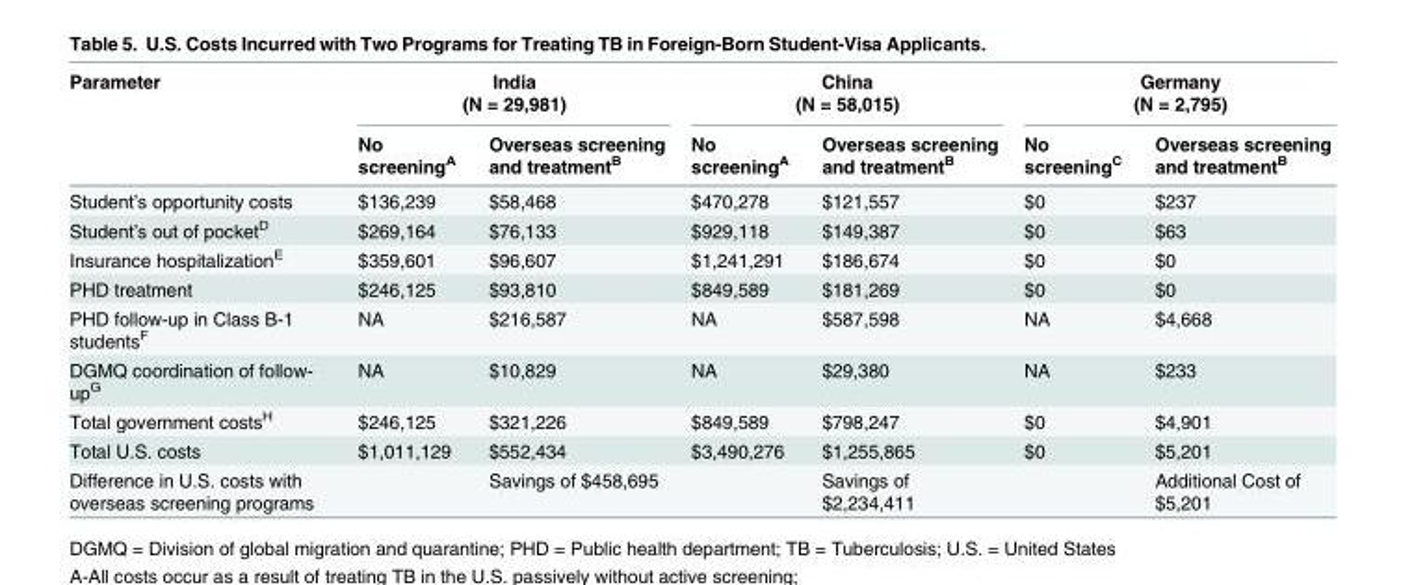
<table><thead><tr><td rowspan="3">Parameter</td><td rowspan="2" colspan="2">India (N = 29,981)</td><td rowspan="2" colspan="2">China (N = 58,015)</td><td rowspan="2" colspan="2">Germany (N = 2,795)</td></tr><tr></tr><tr><td>No screening<sup>A</sup></td><td>Overseas screening and treatment<sup>B</sup></td><td>No screening<sup>A</sup></td><td>Overseas screening and treatment<sup>B</sup></td><td>No screening<sup>C</sup></td><td>Overseas screening and treatment<sup>B</sup></td></tr></thead><tbody><tr><td>Student’s opportunity costs</td><td>$136,239</td><td>$58,468</td><td>$470,278</td><td>$121,557</td><td>$0</td><td>$237</td></tr><tr><td>Student’s out of pocket<sup>D</sup></td><td>$269,164</td><td>$76,133</td><td>$929,118</td><td>$149,387</td><td>$0</td><td>$63</td></tr><tr><td>Insurance hospitalization<sup>E</sup></td><td>$359,601</td><td>$96,607</td><td>$1,241,291</td><td>$186,674</td><td>$0</td><td>$0</td></tr><tr><td>PHD treatment</td><td>$246,125</td><td>$93,810</td><td>$849,589</td><td>$181,269</td><td>$0</td><td>$0</td></tr><tr><td>PHD follow-up in Class B-1 students<sup>F</sup></td><td>NA</td><td>$216,587</td><td>NA</td><td>$587,598</td><td>NA</td><td>$4,668</td></tr><tr><td>DGMQ coordination of follow- up<sup>G</sup></td><td>NA</td><td>$10,829</td><td>NA</td><td>$29,380</td><td>NA</td><td>$233</td></tr><tr><td>Total government costs<sup>H</sup></td><td>$246,125</td><td>$321,226</td><td>$849,589</td><td>$798,247</td><td>$0</td><td>$4,901</td></tr><tr><td>Total U.S. costs</td><td>$1,011,129</td><td>$552,434</td><td>$3,490,276</td><td>$1,255,865</td><td>$0</td><td>$5,201</td></tr><tr><td>Difference in U.S. costs with overseas screening programs</td><td></td><td>Savings of $458,695</td><td></td><td>Savings of $2,234,411</td><td></td><td>Additional Cost of $5,201</td></tr></tbody></table>